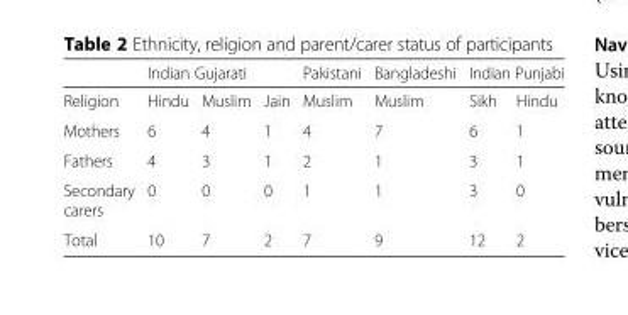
<table><thead><tr><td rowspan="2">Religion</td><td colspan="3">Indian Gujarati</td><td rowspan="2">Pakistani Muslim</td><td rowspan="2">Bangladeshi Muslim</td><td colspan="2">Indian Punjabi</td></tr><tr><td>Hindu</td><td>Muslim</td><td>Jain</td><td>Sikh</td><td>Hindu</td></tr></thead><tbody><tr><td>Mothers</td><td>6</td><td>4</td><td>1</td><td>4</td><td>7</td><td>6</td><td>1</td></tr><tr><td>Fathers</td><td>4</td><td>3</td><td>1</td><td>2</td><td>1</td><td>3</td><td>1</td></tr><tr><td>Secondary carers</td><td>0</td><td>0</td><td>0</td><td>1</td><td>1</td><td>3</td><td>0</td></tr><tr><td>Total</td><td>10</td><td>7</td><td>2</td><td>7</td><td>9</td><td>12</td><td>2</td></tr></tbody></table>